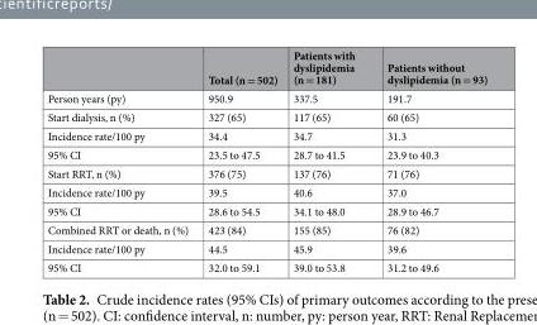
<table><thead><tr><td></td><td>Total (n = 502)</td><td>Patients with dyslipidemia (n = 181)</td><td>Patients without dyslipidemia (n = 93)</td></tr></thead><tbody><tr><td>Person years (py)</td><td>950.9</td><td>337.5</td><td>191.7</td></tr><tr><td>Start dialysis, n (%)</td><td>327 (65)</td><td>117 (65)</td><td>60 (65)</td></tr><tr><td>Incidence rate/100 py</td><td>34.4</td><td>34.7</td><td>31.3</td></tr><tr><td>95% CI</td><td>23.5 to 47.5</td><td>28.7 to 41.5</td><td>23.9 to 40.3</td></tr><tr><td>Start RRT, n (%)</td><td>376 (75)</td><td>137 (76)</td><td>71 (76)</td></tr><tr><td>Incidence rate/100 py</td><td>39.5</td><td>40.6</td><td>37.0</td></tr><tr><td>95% CI</td><td>28.6 to 54.5</td><td>34.1 to 48.0</td><td>28.9 to 46.7</td></tr><tr><td>Combined RRT or death, n (%)</td><td>423 (84)</td><td>155 (85)</td><td>76 (82)</td></tr><tr><td>Incidence rate/100 py</td><td>44.5</td><td>45.9</td><td>39.6</td></tr><tr><td>95% CI</td><td>32.0 to 59.1</td><td>39.0 to 53.8</td><td>31.2 to 49.6</td></tr></tbody></table>